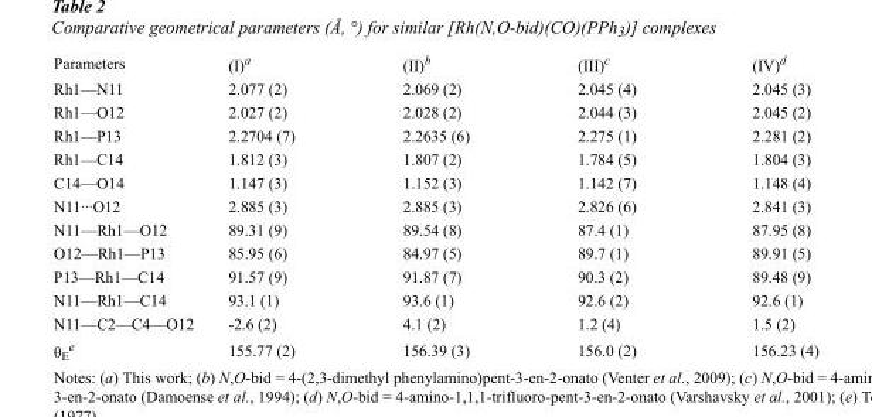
<table><thead><tr><td>Parameters</td><td>(I)<sup>a</sup></td><td>(II)<sup>b</sup></td><td>(III)<sup>c</sup></td><td>(IV)<sup>d</sup></td></tr></thead><tbody><tr><td>Rh1—N11</td><td>2.077 (2)</td><td>2.069 (2)</td><td>2.045 (4)</td><td>2.045 (3)</td></tr><tr><td>Rh1—O12</td><td>2.027 (2)</td><td>2.028 (2)</td><td>2.044 (3)</td><td>2.045 (2)</td></tr><tr><td>Rh1—P13</td><td>2.2704 (7)</td><td>2.2635 (6)</td><td>2.275 (1)</td><td>2.281 (2)</td></tr><tr><td>Rh1—C14</td><td>1.812 (3)</td><td>1.807 (2)</td><td>1.784 (5)</td><td>1.804 (3)</td></tr><tr><td>C14—O14</td><td>1.147 (3)</td><td>1.152 (3)</td><td>1.142 (7)</td><td>1.148 (4)</td></tr><tr><td>N11···O12</td><td>2.885 (3)</td><td>2.885 (3)</td><td>2.826 (6)</td><td>2.841 (3)</td></tr><tr><td>N11—Rh1—O12</td><td>89.31 (9)</td><td>89.54 (8)</td><td>87.4 (1)</td><td>87.95 (8)</td></tr><tr><td>O12—Rh1—P13</td><td>85.95 (6)</td><td>84.97 (5)</td><td>89.7 (1)</td><td>89.91 (5)</td></tr><tr><td>P13—Rh1—C14</td><td>91.57 (9)</td><td>91.87 (7)</td><td>90.3 (2)</td><td>89.48 (9)</td></tr><tr><td>N11—Rh1—C14</td><td>93.1 (1)</td><td>93.6 (1)</td><td>92.6 (2)</td><td>92.6 (1)</td></tr><tr><td>N11—C2—C4—O12</td><td>-2.6 (2)</td><td>4.1 (2)</td><td>1.2 (4)</td><td>1.5 (2)</td></tr><tr><td>θ<sub>E</sub><sup>e</sup></td><td>155.77 (2)</td><td>156.39 (3)</td><td>156.0 (2)</td><td>156.23 (4)</td></tr></tbody></table>